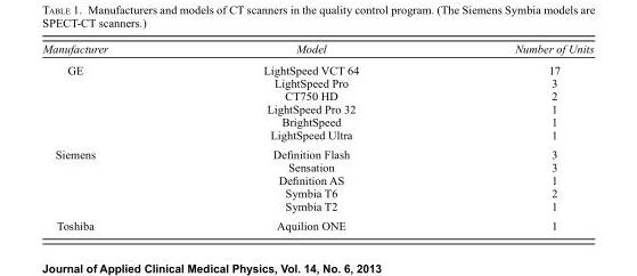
<table><thead><tr><td>Manufacturer</td><td>Model</td><td>Number of Units</td></tr></thead><tbody><tr><td rowspan="6">GE</td><td>LightSpeed VCT 64</td><td>17</td></tr><tr><td>LightSpeed Pro</td><td>3</td></tr><tr><td>CT750 HD</td><td>2</td></tr><tr><td>LightSpeed Pro 32</td><td>1</td></tr><tr><td>BrightSpeed</td><td>1</td></tr><tr><td>LightSpeed Ultra</td><td>1</td></tr><tr><td rowspan="5">Siemens</td><td>Definition Flash</td><td>3</td></tr><tr><td>Sensation</td><td>3</td></tr><tr><td>Definition AS</td><td>1</td></tr><tr><td>Symbia T6</td><td>2</td></tr><tr><td>Symbia T2</td><td>1</td></tr><tr><td>Toshiba</td><td>Aquilion ONE</td><td>1</td></tr></tbody></table>